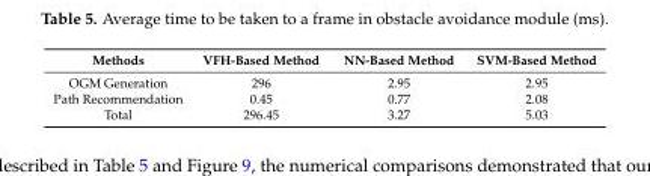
<table><thead><tr><td>Methods</td><td>VFH-Based Method</td><td>NN-Based Method</td><td>SVM-Based Method</td></tr></thead><tbody><tr><td>OGM Generation</td><td>296</td><td>2.95</td><td>2.95</td></tr><tr><td>Path Recommendation</td><td>0.45</td><td>0.77</td><td>2.08</td></tr><tr><td>Total</td><td>296.45</td><td>3.27</td><td>5.03</td></tr></tbody></table>